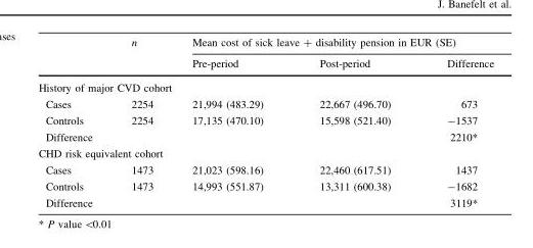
<table><thead><tr><td rowspan="2"></td><td rowspan="2">n</td><td colspan="3">Mean cost of sick leave + disability pension in EUR (SE)</td></tr><tr><td>Pre-period</td><td>Post-period</td><td>Difference</td></tr></thead><tbody><tr><td colspan="5">History of major CVD cohort</td></tr><tr><td>Cases</td><td>2254</td><td>21,994 (483.29)</td><td>22,667 (496.70)</td><td>673</td></tr><tr><td>Controls</td><td>2254</td><td>17,135 (470.10)</td><td>15,598 (521.40)</td><td>-1537</td></tr><tr><td>Difference</td><td></td><td></td><td></td><td>2210*</td></tr><tr><td colspan="5">CHD risk equivalent cohort</td></tr><tr><td>Cases</td><td>1473</td><td>21,023 (598.16)</td><td>22,460 (617.51)</td><td>1437</td></tr><tr><td>Controls</td><td>1473</td><td>14,993 (551.87)</td><td>13,311 (600.38)</td><td>-1682</td></tr><tr><td>Difference</td><td></td><td></td><td></td><td>3119*</td></tr></tbody></table>